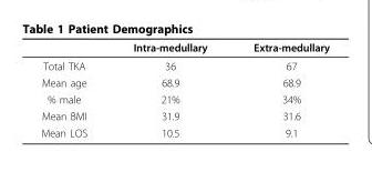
<table><thead><tr><td></td><td>Intra-medullary</td><td>Extra-medullary</td></tr></thead><tbody><tr><td>Total TKA</td><td>36</td><td>67</td></tr><tr><td>Mean age</td><td>68.9</td><td>68.9</td></tr><tr><td>% male</td><td>21%</td><td>34%</td></tr><tr><td>Mean BMI</td><td>31.9</td><td>31.6</td></tr><tr><td>Mean LOS</td><td>10.5</td><td>9.1</td></tr></tbody></table>